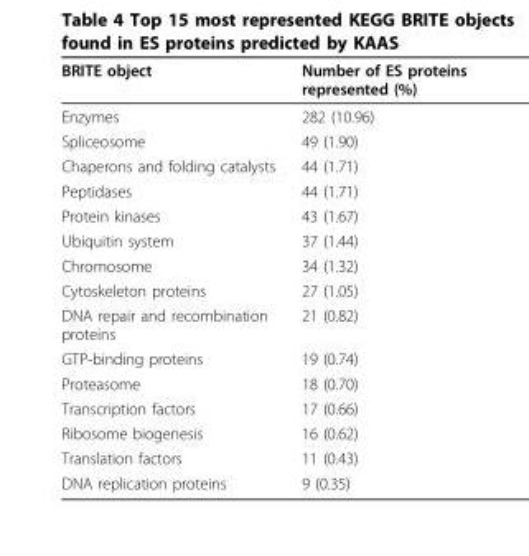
<table><thead><tr><td>BRITE object</td><td>Number of ES proteins represented (%)</td></tr></thead><tbody><tr><td>Enzymes</td><td>282 (10.96)</td></tr><tr><td>Spliceosome</td><td>49 (1.90)</td></tr><tr><td>Chaperons and folding catalysts</td><td>44 (1.71)</td></tr><tr><td>Peptidases</td><td>44 (1.71)</td></tr><tr><td>Protein kinases</td><td>43 (1.67)</td></tr><tr><td>Ubiquitin system</td><td>37 (1.44)</td></tr><tr><td>Chromosome</td><td>34 (1.32)</td></tr><tr><td>Cytoskeleton proteins</td><td>27 (1.05)</td></tr><tr><td>DNA repair and recombination proteins</td><td>21 (0.82)</td></tr><tr><td>GTP-binding proteins</td><td>19 (0.74)</td></tr><tr><td>Proteasome</td><td>18 (0.70)</td></tr><tr><td>Transcription factors</td><td>17 (0.66)</td></tr><tr><td>Ribosome biogenesis</td><td>16 (0.62)</td></tr><tr><td>Translation factors</td><td>11 (0.43)</td></tr><tr><td>DNA replication proteins</td><td>9 (0.35)</td></tr></tbody></table>